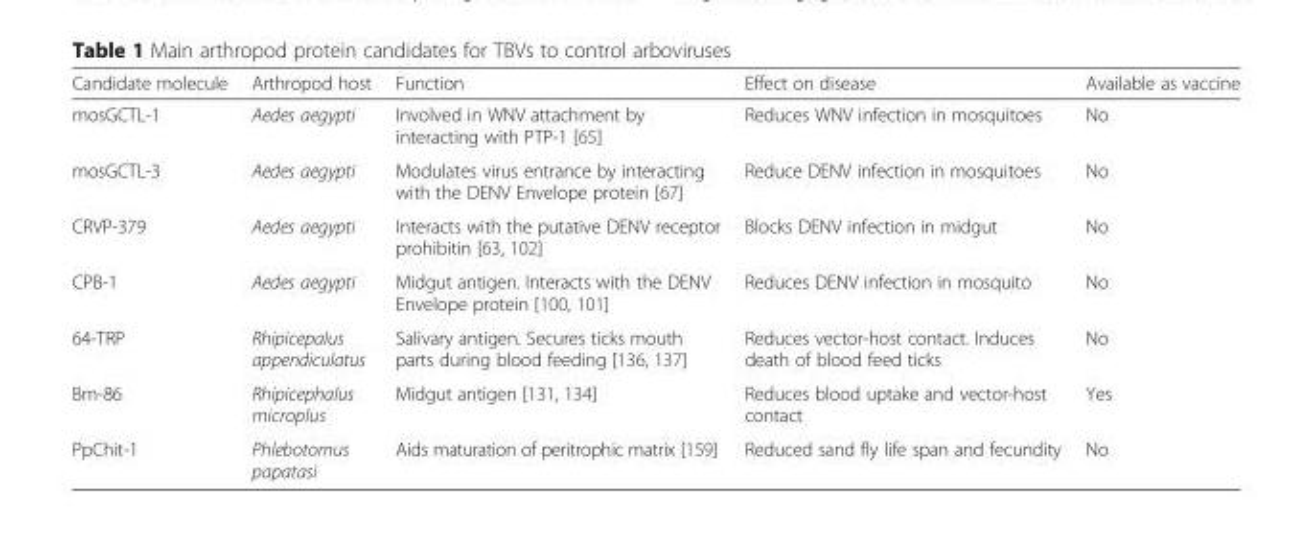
<table><thead><tr><td>Candidate molecule</td><td>Arthropod host</td><td>Function</td><td>Effect on disease</td><td>Available as vaccine</td></tr></thead><tbody><tr><td>mosGCTL-1</td><td>Aedes aegypti</td><td>Involved in WNV attachment by interacting with PTP-1 [65]</td><td>Reduces WNV infection in mosquitoes</td><td>No</td></tr><tr><td>mosGCTL-3</td><td>Aedes aegypti</td><td>Modulates virus entrance by interacting with the DENV Envelope protein [67]</td><td>Reduce DENV infection in mosquitoes</td><td>No</td></tr><tr><td>CRVP-379</td><td>Aedes aegypti</td><td>Interacts with the putative DENV receptor prohibitin [63, 102]</td><td>Blocks DENV infection in midgut</td><td>No</td></tr><tr><td>CPB-1</td><td>Aedes aegypti</td><td>Midgut antigen. Interacts with the DENV Envelope protein [100, 101]</td><td>Reduces DENV infection in mosquito</td><td>No</td></tr><tr><td>64-TRP</td><td>Rhipicepalus appendiculatus</td><td>Salivary antigen. Secures ticks mouth parts during blood feeding [136, 137]</td><td>Reduces vector-host contact. Induces death of blood feed ticks</td><td>No</td></tr><tr><td>Bm-86</td><td>Rhipicephalus microplus</td><td>Midgut antigen [131, 134]</td><td>Reduces blood uptake and vector-host contact</td><td>Yes</td></tr><tr><td>PpChit-1</td><td>Phlebotomus papatasi</td><td>Aids maturation of peritrophic matrix [159]</td><td>Reduced sand fly life span and fecundity</td><td>No</td></tr></tbody></table>